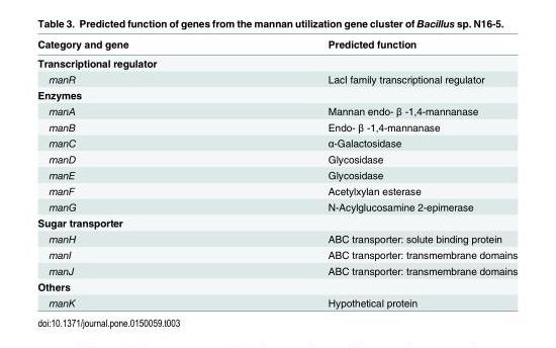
<table><thead><tr><td>Category and gene</td><td>Predicted function</td></tr></thead><tbody><tr><td colspan="2">Transcriptional regulator</td></tr><tr><td>manR</td><td>LacI family transcriptional regulator</td></tr><tr><td colspan="2">Enzymes</td></tr><tr><td>manA</td><td>Mannan endo- β -1,4-mannanase</td></tr><tr><td>manB</td><td>Endo- β -1,4-mannanase</td></tr><tr><td>manC</td><td>α-Galactosidase</td></tr><tr><td>manD</td><td>Glycosidase</td></tr><tr><td>manE</td><td>Glycosidase</td></tr><tr><td>manF</td><td>Acetylxylan esterase</td></tr><tr><td>manG</td><td>N-Acylglucosamine 2-epimerase</td></tr><tr><td colspan="2">Sugar transporter</td></tr><tr><td>manH</td><td>ABC transporter: solute binding protein</td></tr><tr><td>manI</td><td>ABC transporter: transmembrane domains</td></tr><tr><td>manJ</td><td>ABC transporter: transmembrane domains</td></tr><tr><td colspan="2">Others</td></tr><tr><td>manK</td><td>Hypothetical protein</td></tr></tbody></table>